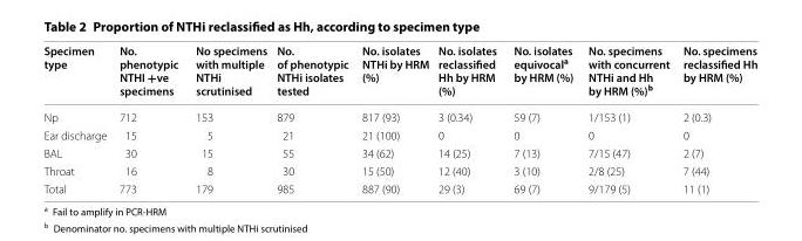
<table><thead><tr><td>Specimen type</td><td>No. phenotypic NTHI +ve specimens</td><td>No specimens with multiple NTHi scrutinised</td><td>No. of phenotypic NTHi isolates tested</td><td>No. isolates NTHi by HRM (%)</td><td>No. isolates reclassified Hh by HRM (%)</td><td>No. isolates equivocal<sup>a</sup> by HRM (%)</td><td>No. specimens with concurrent NTHi and Hh by HRM (%)<sup>b</sup></td><td>No. specimens reclassified Hh by HRM (%)</td></tr></thead><tbody><tr><td>Np</td><td>712</td><td>153</td><td>879</td><td>817 (93)</td><td>3 (0.34)</td><td>59 (7)</td><td>1/153 (1)</td><td>2 (0.3)</td></tr><tr><td>Ear discharge</td><td>15</td><td>5</td><td>21</td><td>21 (100)</td><td>0</td><td>0</td><td>0</td><td>0</td></tr><tr><td>BAL</td><td>30</td><td>15</td><td>55</td><td>34 (62)</td><td>14 (25)</td><td>7 (13)</td><td>7/15 (47)</td><td>2 (7)</td></tr><tr><td>Throat</td><td>16</td><td>8</td><td>30</td><td>15 (50)</td><td>12 (40)</td><td>3 (10)</td><td>2/8 (25)</td><td>7 (44)</td></tr><tr><td>Total</td><td>773</td><td>179</td><td>985</td><td>887 (90)</td><td>29 (3)</td><td>69 (7)</td><td>9/179 (5)</td><td>11 (1)</td></tr></tbody></table>